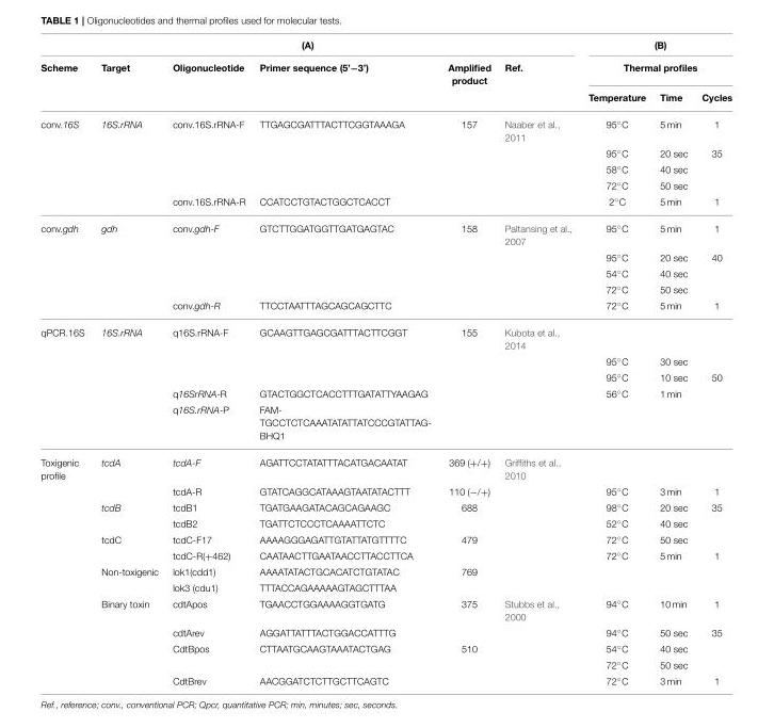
<table><thead><tr><td colspan="6">(A)</td><td rowspan="2" colspan="3">(B) Thermal profiles</td></tr><tr><td rowspan="2">Scheme</td><td rowspan="2">Target</td><td rowspan="2">Oligonucleotide</td><td rowspan="2">Primer sequence (5’−3’)</td><td rowspan="2">Amplified product</td><td rowspan="2">Ref.</td></tr><tr><td>Temperature</td><td>Time</td><td>Cycles</td></tr></thead><tbody><tr><td rowspan="5">conv.16S</td><td>16S.rRNA</td><td>conv.16S.rRNA-F</td><td>TTGAGCGATTTACTTCGGTAAAGA</td><td>157</td><td>Naaber et al., 2011</td><td>95◦C</td><td>5 min</td><td>1</td></tr><tr><td></td><td></td><td></td><td></td><td></td><td>95◦C</td><td>20 sec</td><td>35</td></tr><tr><td></td><td></td><td></td><td></td><td></td><td>58◦C</td><td>40 sec</td><td></td></tr><tr><td></td><td></td><td></td><td></td><td></td><td>72◦C</td><td>50 sec</td><td></td></tr><tr><td></td><td>conv.16S.rRNA-R</td><td>CCATCCTGTACTGGCTCACCT</td><td></td><td></td><td>2◦C</td><td>5 min</td><td>1</td></tr><tr><td rowspan="5">conv.gdh</td><td>gdh</td><td>conv.gdh-F</td><td>GTCTTGGATGGTTGATGAGTAC</td><td>158</td><td>Paltansing et al., 2007</td><td>95◦C</td><td>5 min</td><td>1</td></tr><tr><td></td><td></td><td></td><td></td><td></td><td>95◦C</td><td>20 sec</td><td>40</td></tr><tr><td></td><td></td><td></td><td></td><td></td><td>54◦C</td><td>40 sec</td><td></td></tr><tr><td></td><td></td><td></td><td></td><td></td><td>72◦C</td><td>50 sec</td><td></td></tr><tr><td></td><td>conv.gdh-R</td><td>TTCCTAATTTAGCAGCAGCTTC</td><td></td><td></td><td>72◦C</td><td>5 min</td><td>1</td></tr><tr><td rowspan="5">qPCR.16S</td><td>16S.rRNA</td><td>q16S.rRNA-F</td><td>GCAAGTTGAGCGATTTACTTCGGT</td><td>155</td><td>Kubota et al., 2014</td><td></td><td></td><td></td></tr><tr><td></td><td></td><td></td><td></td><td></td><td>95◦C</td><td>30 sec</td><td></td></tr><tr><td></td><td></td><td></td><td></td><td></td><td>95◦C</td><td>10 sec</td><td>50</td></tr><tr><td></td><td>q16SrRNA-R</td><td>GTACTGGCTCACCTTTGATATTYAAGAG</td><td></td><td></td><td>56◦C</td><td>1 min</td><td></td></tr><tr><td></td><td>q16S.rRNA-P</td><td>FAM- TGCCTCTCAAATATATTATCCCGTATTAG- BHQ1</td><td></td><td></td><td></td><td></td><td></td></tr><tr><td rowspan="13">Toxigenic profile</td><td>tcdA</td><td>tcdA-F</td><td>AGATTCCTATATTTACATGACAATAT</td><td>369 (+/+)</td><td>Griffiths et al., 2010</td><td></td><td></td><td></td></tr><tr><td></td><td>tcdA-R</td><td>GTATCAGGCATAAAGTAATATACTTT</td><td>110 (−/+)</td><td></td><td>95◦C</td><td>3 min</td><td>1</td></tr><tr><td>tcdB</td><td>tcdB1</td><td>TGATGAAGATACAGCAGAAGC</td><td>688</td><td></td><td>98◦C</td><td>20 sec</td><td>35</td></tr><tr><td></td><td>tcdB2</td><td>TGATTCTCCCTCAAAATTCTC</td><td></td><td></td><td>52◦C</td><td>40 sec</td><td></td></tr><tr><td>tcdC</td><td>tcdC-F17</td><td>AAAAGGGAGATTGTATTATGTTTTC</td><td>479</td><td></td><td>72◦C</td><td>50 sec</td><td></td></tr><tr><td></td><td>tcdC-R(+462)</td><td>CAATAACTTGAATAACCTTACCTTCA</td><td></td><td></td><td>72◦C</td><td>5 min</td><td>1</td></tr><tr><td>Non-toxigenic</td><td>lok1(cdd1)</td><td>AAAATATACTGCACATCTGTATAC</td><td>769</td><td></td><td></td><td></td><td></td></tr><tr><td></td><td>lok3 (cdu1)</td><td>TTTACCAGAAAAAGTAGCTTTAA</td><td></td><td></td><td></td><td></td><td></td></tr><tr><td>Binary toxin</td><td>cdtApos</td><td>TGAACCTGGAAAAGGTGATG</td><td>375</td><td>Stubbs et al., 2000</td><td>94◦C</td><td>10 min</td><td>1</td></tr><tr><td></td><td>cdtArev</td><td>AGGATTATTTACTGGACCATTTG</td><td></td><td></td><td>94◦C</td><td>50 sec</td><td>35</td></tr><tr><td></td><td>CdtBpos</td><td>CTTAATGCAAGTAAATACTGAG</td><td>510</td><td></td><td>54◦C</td><td>40 sec</td><td></td></tr><tr><td></td><td></td><td></td><td></td><td></td><td>72◦C</td><td>50 sec</td><td></td></tr><tr><td></td><td>CdtBrev</td><td>AACGGATCTCTTGCTTCAGTC</td><td></td><td></td><td>72◦C</td><td>3 min</td><td>1</td></tr></tbody></table>